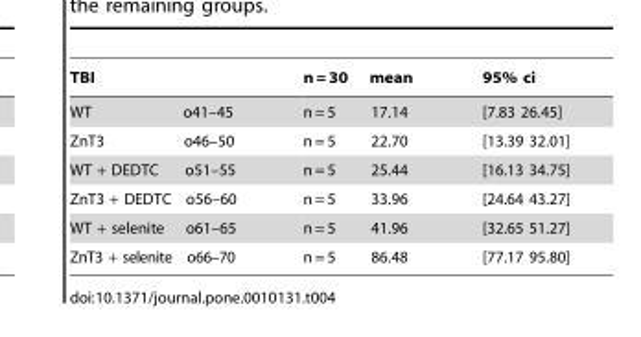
<table><thead><tr><td>TBI</td><td>n = 30 mean</td><td>95% ci</td></tr></thead><tbody><tr><td>WT o41–45</td><td>n = 5 17.14</td><td>[7.83 26.45]</td></tr><tr><td>ZnT3 o46–50</td><td>n = 5 22.70</td><td>[13.39 32.01]</td></tr><tr><td>WT + DEDTC o51–55</td><td>n = 5 25.44</td><td>[16.13 34.75]</td></tr><tr><td>ZnT3 + DEDTC o56–60</td><td>n = 5 33.96</td><td>[24.64 43.27]</td></tr><tr><td>WT + selenite o61–65</td><td>n = 5 41.96</td><td>[32.65 51.27]</td></tr><tr><td>ZnT3 + selenite o66–70</td><td>n = 5 86.48</td><td>[77.17 95.80]</td></tr></tbody></table>